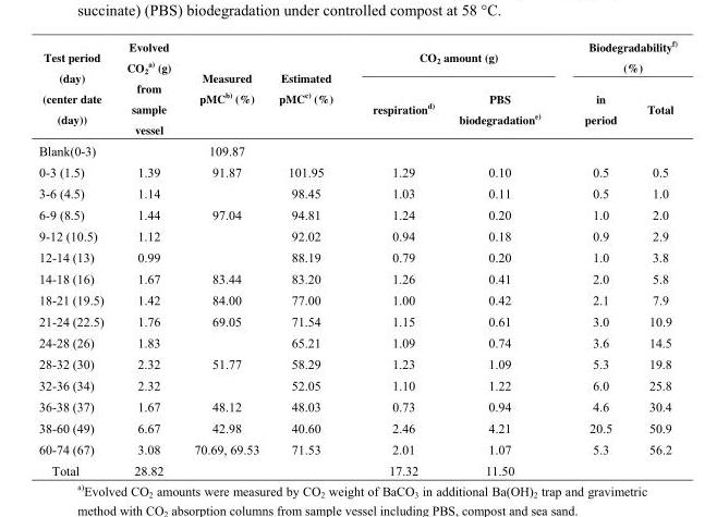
<table><thead><tr><td rowspan="2">Test period (day) (center date (day))</td><td rowspan="2">Evolved CO<sub>2</sub> a) (g) from sample vessel</td><td rowspan="2">Measured pMCb) (%)</td><td rowspan="2">Estimated pMCc) (%)</td><td colspan="2">CO<sub>2</sub> amount (g)</td><td colspan="2">Biodegradabilityf) (%)</td></tr><tr><td>respirationd)</td><td>PBS biodegradatione)</td><td>in period</td><td>Total</td></tr></thead><tbody><tr><td>Blank(0-3)</td><td></td><td>109.87</td><td></td><td></td><td></td><td></td><td></td></tr><tr><td>0-3 (1.5)</td><td>1.39</td><td>91.87</td><td>101.95</td><td>1.29</td><td>0.10</td><td>0.5</td><td>0.5</td></tr><tr><td>3-6 (4.5)</td><td>1.14</td><td></td><td>98.45</td><td>1.03</td><td>0.11</td><td>0.5</td><td>1.0</td></tr><tr><td>6-9 (8.5)</td><td>1.44</td><td>97.04</td><td>94.81</td><td>1.24</td><td>0.20</td><td>1.0</td><td>2.0</td></tr><tr><td>9-12 (10.5)</td><td>1.12</td><td></td><td>92.02</td><td>0.94</td><td>0.18</td><td>0.9</td><td>2.9</td></tr><tr><td>12-14 (13)</td><td>0.99</td><td></td><td>88.19</td><td>0.79</td><td>0.20</td><td>1.0</td><td>3.8</td></tr><tr><td>14-18 (16)</td><td>1.67</td><td>83.44</td><td>83.20</td><td>1.26</td><td>0.41</td><td>2.0</td><td>5.8</td></tr><tr><td>18-21 (19.5)</td><td>1.42</td><td>84.00</td><td>77.00</td><td>1.00</td><td>0.42</td><td>2.1</td><td>7.9</td></tr><tr><td>21-24 (22.5)</td><td>1.76</td><td>69.05</td><td>71.54</td><td>1.15</td><td>0.61</td><td>3.0</td><td>10.9</td></tr><tr><td>24-28 (26)</td><td>1.83</td><td></td><td>65.21</td><td>1.09</td><td>0.74</td><td>3.6</td><td>14.5</td></tr><tr><td>28-32 (30)</td><td>2.32</td><td>51.77</td><td>58.29</td><td>1.23</td><td>1.09</td><td>5.3</td><td>19.8</td></tr><tr><td>32-36 (34)</td><td>2.32</td><td></td><td>52.05</td><td>1.10</td><td>1.22</td><td>6.0</td><td>25.8</td></tr><tr><td>36-38 (37)</td><td>1.67</td><td>48.12</td><td>48.03</td><td>0.73</td><td>0.94</td><td>4.6</td><td>30.4</td></tr><tr><td>38-60 (49)</td><td>6.67</td><td>42.98</td><td>40.60</td><td>2.46</td><td>4.21</td><td>20.5</td><td>50.9</td></tr><tr><td>60-74 (67)</td><td>3.08</td><td>70.69, 69.53</td><td>71.53</td><td>2.01</td><td>1.07</td><td>5.3</td><td>56.2</td></tr><tr><td>Total</td><td>28.82</td><td></td><td></td><td>17.32</td><td>11.50</td><td></td><td></td></tr></tbody></table>